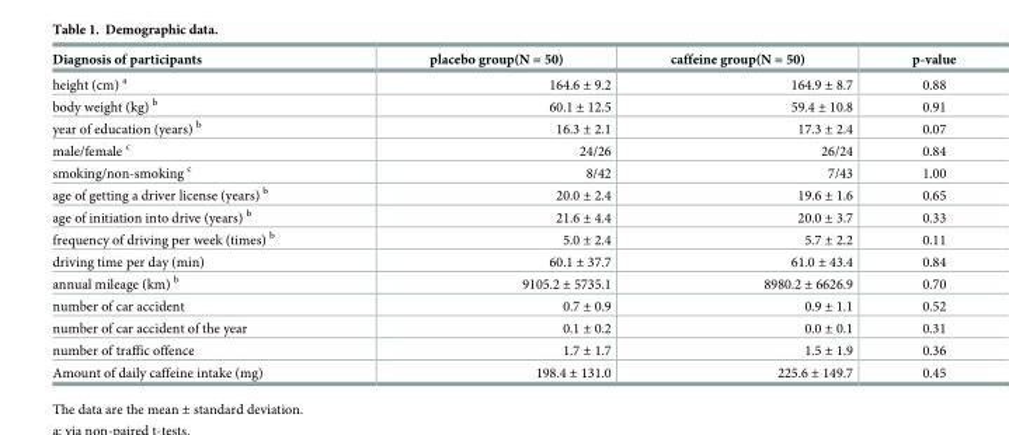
<table><thead><tr><td>Diagnosis of participants</td><td>placebo group(N = 50)</td><td>caffeine group(N = 50)</td><td>p-value</td></tr></thead><tbody><tr><td>height (cm) <sup>a</sup></td><td>164.6 ± 9.2</td><td>164.9 ± 8.7</td><td>0.88</td></tr><tr><td>body weight (kg) <sup>b</sup></td><td>60.1 ± 12.5</td><td>59.4 ± 10.8</td><td>0.91</td></tr><tr><td>year of education (years) <sup>b</sup></td><td>16.3 ± 2.1</td><td>17.3 ± 2.4</td><td>0.07</td></tr><tr><td>male/female <sup>c</sup></td><td>24/26</td><td>26/24</td><td>0.84</td></tr><tr><td>smoking/non-smoking <sup>c</sup></td><td>8/42</td><td>7/43</td><td>1.00</td></tr><tr><td>age of getting a driver license (years) <sup>b</sup></td><td>20.0 ± 2.4</td><td>19.6 ± 1.6</td><td>0.65</td></tr><tr><td>age of initiation into drive (years) <sup>b</sup></td><td>21.6 ± 4.4</td><td>20.0 ± 3.7</td><td>0.33</td></tr><tr><td>frequency of driving per week (times) <sup>b</sup></td><td>5.0 ± 2.4</td><td>5.7 ± 2.2</td><td>0.11</td></tr><tr><td>driving time per day (min)</td><td>60.1 ± 37.7</td><td>61.0 ± 43.4</td><td>0.84</td></tr><tr><td>annual mileage (km) <sup>b</sup></td><td>9105.2 ± 5735.1</td><td>8980.2 ± 6626.9</td><td>0.70</td></tr><tr><td>number of car accident</td><td>0.7 ± 0.9</td><td>0.9 ± 1.1</td><td>0.52</td></tr><tr><td>number of car accident of the year</td><td>0.1 ± 0.2</td><td>0.0 ± 0.1</td><td>0.31</td></tr><tr><td>number of traffic offence</td><td>1.7 ± 1.7</td><td>1.5 ± 1.9</td><td>0.36</td></tr><tr><td>Amount of daily caffeine intake (mg)</td><td>198.4 ± 131.0</td><td>225.6 ± 149.7</td><td>0.45</td></tr></tbody></table>